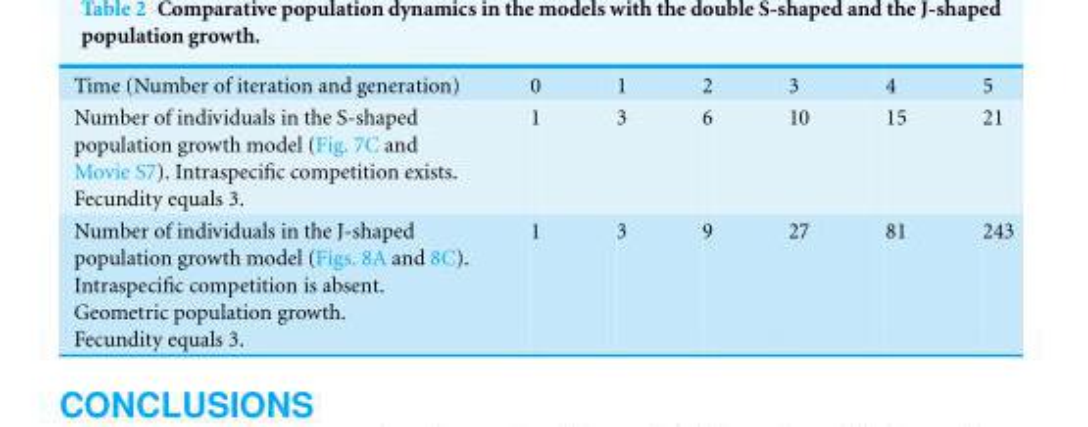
<table><tbody><tr><td>Time (Number of iteration and generation)</td><td>0</td><td>1</td><td>2</td><td>3</td><td>4</td><td>5</td></tr><tr><td>Number of individuals in the S-shaped population growth model (Fig. 7C and Movie S7). Intraspecific competition exists. Fecundity equals 3.</td><td>1</td><td>3</td><td>6</td><td>10</td><td>15</td><td>21</td></tr><tr><td>Number of individuals in the J-shaped population growth model (Figs. 8A and 8C). Intraspecific competition is absent. Geometric population growth. Fecundity equals 3.</td><td>1</td><td>3</td><td>9</td><td>27</td><td>81</td><td>243</td></tr></tbody></table>